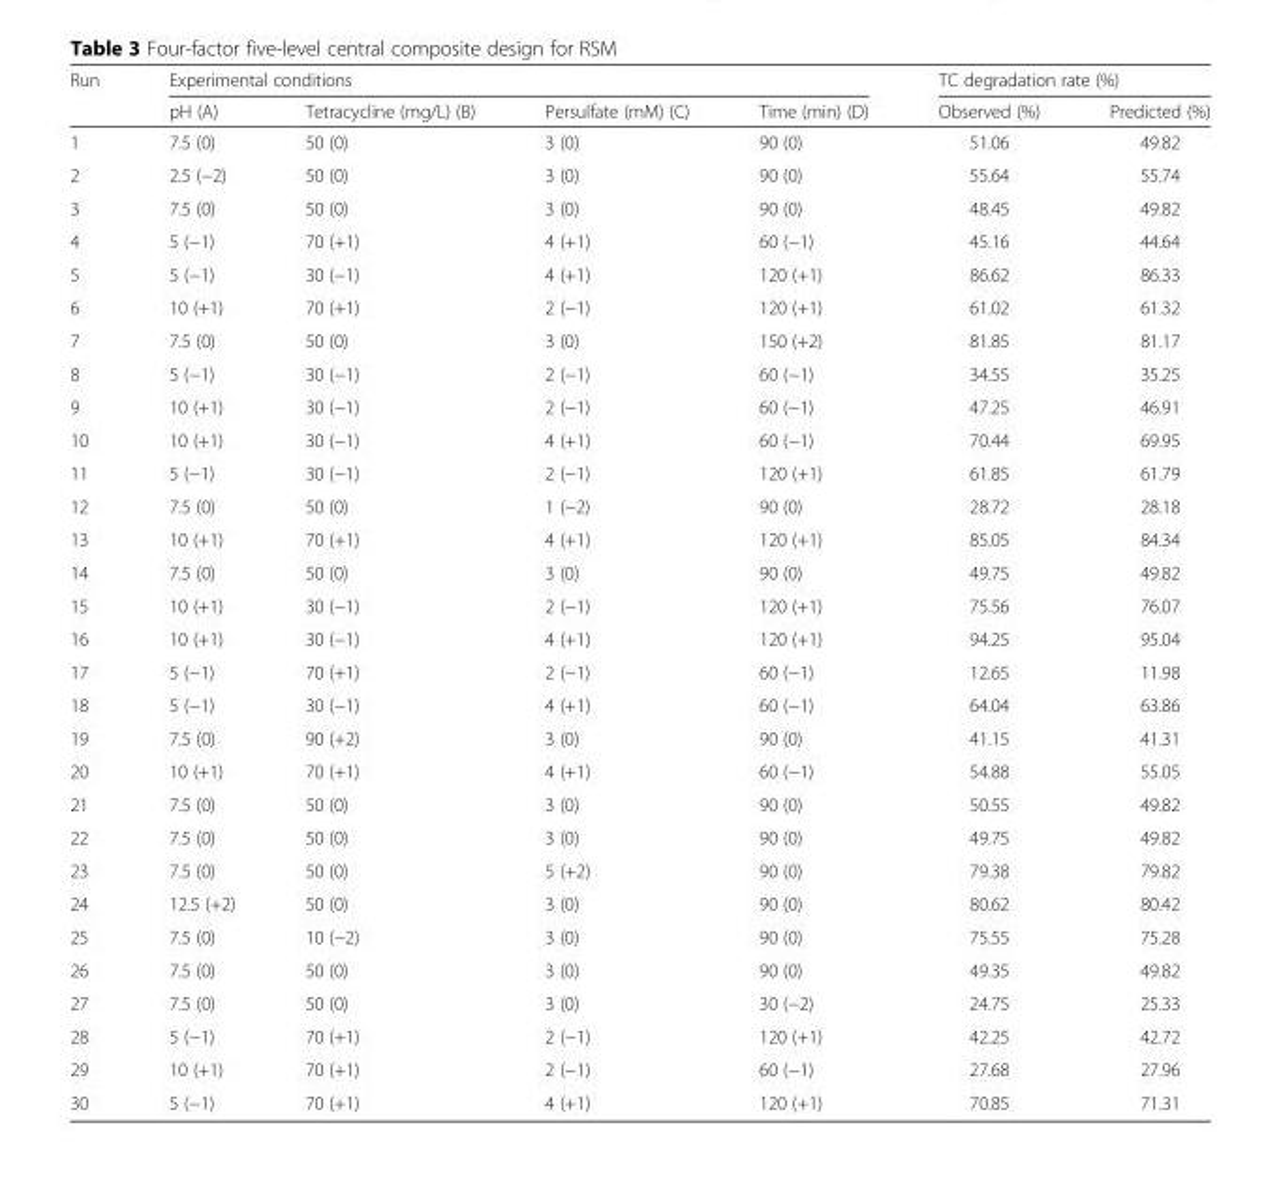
<table><thead><tr><td rowspan="2">Run</td><td colspan="4">Experimental conditions</td><td colspan="2">TC degradation rate (%)</td></tr><tr><td>pH (A)</td><td>Tetracycline (mg/L) (B)</td><td>Persulfate (mM) (C)</td><td>Time (min) (D)</td><td>Observed (%)</td><td>Predicted (%)</td></tr></thead><tbody><tr><td>1</td><td>7.5 (0)</td><td>50 (0)</td><td>3 (0)</td><td>90 (0)</td><td>51.06</td><td>49.82</td></tr><tr><td>2</td><td>2.5 (−2)</td><td>50 (0)</td><td>3 (0)</td><td>90 (0)</td><td>55.64</td><td>55.74</td></tr><tr><td>3</td><td>7.5 (0)</td><td>50 (0)</td><td>3 (0)</td><td>90 (0)</td><td>48.45</td><td>49.82</td></tr><tr><td>4</td><td>5 (−1)</td><td>70 (+1)</td><td>4 (+1)</td><td>60 (−1)</td><td>45.16</td><td>44.64</td></tr><tr><td>5</td><td>5 (−1)</td><td>30 (−1)</td><td>4 (+1)</td><td>120 (+1)</td><td>86.62</td><td>86.33</td></tr><tr><td>6</td><td>10 (+1)</td><td>70 (+1)</td><td>2 (−1)</td><td>120 (+1)</td><td>61.02</td><td>61.32</td></tr><tr><td>7</td><td>7.5 (0)</td><td>50 (0)</td><td>3 (0)</td><td>150 (+2)</td><td>81.85</td><td>81.17</td></tr><tr><td>8</td><td>5 (−1)</td><td>30 (−1)</td><td>2 (−1)</td><td>60 (−1)</td><td>34.55</td><td>35.25</td></tr><tr><td>9</td><td>10 (+1)</td><td>30 (−1)</td><td>2 (−1)</td><td>60 (−1)</td><td>47.25</td><td>46.91</td></tr><tr><td>10</td><td>10 (+1)</td><td>30 (−1)</td><td>4 (+1)</td><td>60 (−1)</td><td>70.44</td><td>69.95</td></tr><tr><td>11</td><td>5 (−1)</td><td>30 (−1)</td><td>2 (−1)</td><td>120 (+1)</td><td>61.85</td><td>61.79</td></tr><tr><td>12</td><td>7.5 (0)</td><td>50 (0)</td><td>1 (−2)</td><td>90 (0)</td><td>28.72</td><td>28.18</td></tr><tr><td>13</td><td>10 (+1)</td><td>70 (+1)</td><td>4 (+1)</td><td>120 (+1)</td><td>85.05</td><td>84.34</td></tr><tr><td>14</td><td>7.5 (0)</td><td>50 (0)</td><td>3 (0)</td><td>90 (0)</td><td>49.75</td><td>49.82</td></tr><tr><td>15</td><td>10 (+1)</td><td>30 (−1)</td><td>2 (−1)</td><td>120 (+1)</td><td>75.56</td><td>76.07</td></tr><tr><td>16</td><td>10 (+1)</td><td>30 (−1)</td><td>4 (+1)</td><td>120 (+1)</td><td>94.25</td><td>95.04</td></tr><tr><td>17</td><td>5 (−1)</td><td>70 (+1)</td><td>2 (−1)</td><td>60 (−1)</td><td>12.65</td><td>11.98</td></tr><tr><td>18</td><td>5 (−1)</td><td>30 (−1)</td><td>4 (+1)</td><td>60 (−1)</td><td>64.04</td><td>63.86</td></tr><tr><td>19</td><td>7.5 (0)</td><td>90 (+2)</td><td>3 (0)</td><td>90 (0)</td><td>41.15</td><td>41.31</td></tr><tr><td>20</td><td>10 (+1)</td><td>70 (+1)</td><td>4 (+1)</td><td>60 (−1)</td><td>54.88</td><td>55.05</td></tr><tr><td>21</td><td>7.5 (0)</td><td>50 (0)</td><td>3 (0)</td><td>90 (0)</td><td>50.55</td><td>49.82</td></tr><tr><td>22</td><td>7.5 (0)</td><td>50 (0)</td><td>3 (0)</td><td>90 (0)</td><td>49.75</td><td>49.82</td></tr><tr><td>23</td><td>7.5 (0)</td><td>50 (0)</td><td>5 (+2)</td><td>90 (0)</td><td>79.38</td><td>79.82</td></tr><tr><td>24</td><td>12.5 (+2)</td><td>50 (0)</td><td>3 (0)</td><td>90 (0)</td><td>80.62</td><td>80.42</td></tr><tr><td>25</td><td>7.5 (0)</td><td>10 (−2)</td><td>3 (0)</td><td>90 (0)</td><td>75.55</td><td>75.28</td></tr><tr><td>26</td><td>7.5 (0)</td><td>50 (0)</td><td>3 (0)</td><td>90 (0)</td><td>49.35</td><td>49.82</td></tr><tr><td>27</td><td>7.5 (0)</td><td>50 (0)</td><td>3 (0)</td><td>30 (−2)</td><td>24.75</td><td>25.33</td></tr><tr><td>28</td><td>5 (−1)</td><td>70 (+1)</td><td>2 (−1)</td><td>120 (+1)</td><td>42.25</td><td>42.72</td></tr><tr><td>29</td><td>10 (+1)</td><td>70 (+1)</td><td>2 (−1)</td><td>60 (−1)</td><td>27.68</td><td>27.96</td></tr><tr><td>30</td><td>5 (−1)</td><td>70 (+1)</td><td>4 (+1)</td><td>120 (+1)</td><td>70.85</td><td>71.31</td></tr></tbody></table>